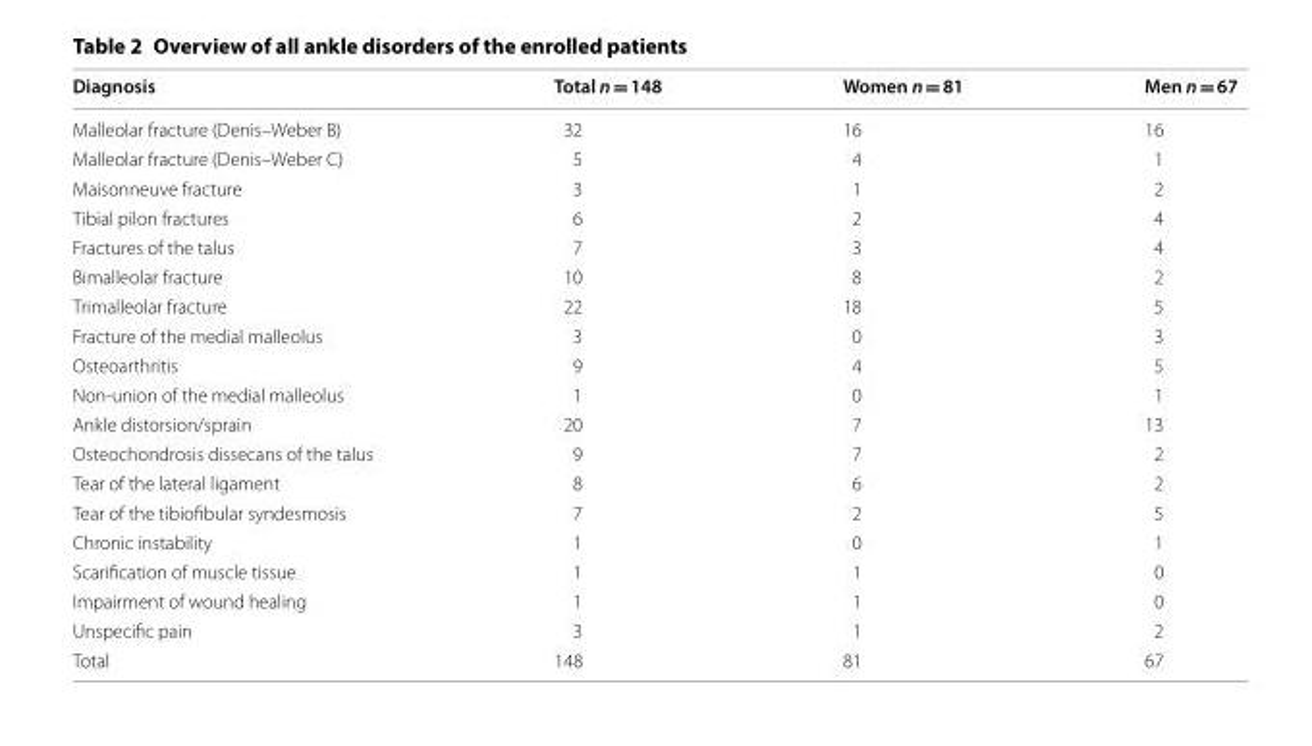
<table><thead><tr><td>Diagnosis</td><td>Total n = 148</td><td>Women n = 81</td><td>Men n = 67</td></tr></thead><tbody><tr><td>Malleolar fracture (Denis–Weber B)</td><td>32</td><td>16</td><td>16</td></tr><tr><td>Malleolar fracture (Denis–Weber C)</td><td>5</td><td>4</td><td>1</td></tr><tr><td>Maisonneuve fracture</td><td>3</td><td>1</td><td>2</td></tr><tr><td>Tibial pilon fractures</td><td>6</td><td>2</td><td>4</td></tr><tr><td>Fractures of the talus</td><td>7</td><td>3</td><td>4</td></tr><tr><td>Bimalleolar fracture</td><td>10</td><td>8</td><td>2</td></tr><tr><td>Trimalleolar fracture</td><td>22</td><td>18</td><td>5</td></tr><tr><td>Fracture of the medial malleolus</td><td>3</td><td>0</td><td>3</td></tr><tr><td>Osteoarthritis</td><td>9</td><td>4</td><td>5</td></tr><tr><td>Non-union of the medial malleolus</td><td>1</td><td>0</td><td>1</td></tr><tr><td>Ankle distorsion/sprain</td><td>20</td><td>7</td><td>13</td></tr><tr><td>Osteochondrosis dissecans of the talus</td><td>9</td><td>7</td><td>2</td></tr><tr><td>Tear of the lateral ligament</td><td>8</td><td>6</td><td>2</td></tr><tr><td>Tear of the tibiofibular syndesmosis</td><td>7</td><td>2</td><td>5</td></tr><tr><td>Chronic instability</td><td>1</td><td>0</td><td>1</td></tr><tr><td>Scarification of muscle tissue</td><td>1</td><td>1</td><td>0</td></tr><tr><td>Impairment of wound healing</td><td>1</td><td>1</td><td>0</td></tr><tr><td>Unspecific pain</td><td>3</td><td>1</td><td>2</td></tr><tr><td>Total</td><td>148</td><td>81</td><td>67</td></tr></tbody></table>